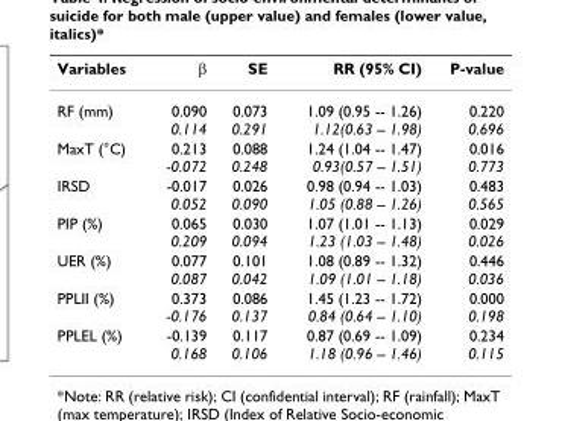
<table><thead><tr><td>Variables</td><td>β</td><td>SE</td><td>RR (95% CI)</td><td>P-value</td></tr></thead><tbody><tr><td>RF (mm)</td><td>0.090 0.114</td><td>0.073 0.291</td><td>1.09 (0.95 -- 1.26) 1.12(0.63 -- 1.98)</td><td>0.220 0.696</td></tr><tr><td>MaxT (°C)</td><td>0.213 -0.072</td><td>0.088 0.248</td><td>1.24 (1.04 -- 1.47) 0.93(0.57 -- 1.51)</td><td>0.016 0.773</td></tr><tr><td>IRSD</td><td>-0.017 0.052</td><td>0.026 0.090</td><td>0.98 (0.94 -- 1.03) 1.05 (0.88 -- 1.26)</td><td>0.483 0.565</td></tr><tr><td>PIP (%)</td><td>0.065 0.209</td><td>0.030 0.094</td><td>1.07 (1.01 -- 1.13) 1.23 (1.03 -- 1.48)</td><td>0.029 0.026</td></tr><tr><td>UER (%)</td><td>0.077 0.087</td><td>0.101 0.042</td><td>1.08 (0.89 -- 1.32) 1.09 (1.01 -- 1.18)</td><td>0.446 0.036</td></tr><tr><td>PPLII (%)</td><td>0.373 -0.176</td><td>0.086 0.137</td><td>1.45 (1.23 -- 1.72) 0.84 (0.64 -- 1.10)</td><td>0.000 0.198</td></tr><tr><td>PPLEL (%)</td><td>-0.139 0.168</td><td>0.117 0.106</td><td>0.87 (0.69 -- 1.09) 1.18 (0.96 -- 1.46)</td><td>0.234 0.115</td></tr></tbody></table>